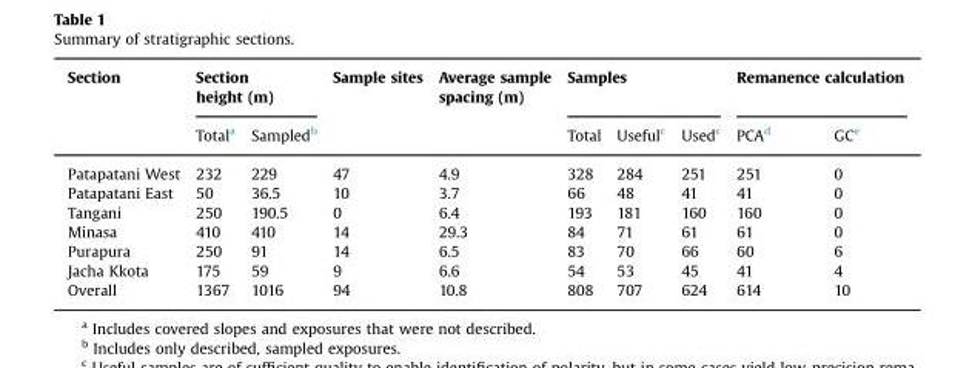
<table><thead><tr><td rowspan="2">Section</td><td colspan="2">Section height (m)</td><td rowspan="2">Sample sites</td><td rowspan="2">Average sample spacing (m)</td><td colspan="3">Samples</td><td colspan="2">Remanence calculation</td></tr><tr><td>Total<sup>a</sup></td><td>Sampled<sup>b</sup></td><td>Total</td><td>Useful<sup>c</sup></td><td>Used<sup>c</sup></td><td>PCA<sup>d</sup></td><td>GC<sup>e</sup></td></tr></thead><tbody><tr><td>Patapatani West</td><td>232</td><td>229</td><td>47</td><td>4.9</td><td>328</td><td>284</td><td>251</td><td>251</td><td>0</td></tr><tr><td>Patapatani East</td><td>50</td><td>36.5</td><td>10</td><td>3.7</td><td>66</td><td>48</td><td>41</td><td>41</td><td>0</td></tr><tr><td>Tangani</td><td>250</td><td>190.5</td><td>0</td><td>6.4</td><td>193</td><td>181</td><td>160</td><td>160</td><td>0</td></tr><tr><td>Minasa</td><td>410</td><td>410</td><td>14</td><td>29.3</td><td>84</td><td>71</td><td>61</td><td>61</td><td>0</td></tr><tr><td>Purapura</td><td>250</td><td>91</td><td>14</td><td>6.5</td><td>83</td><td>70</td><td>66</td><td>60</td><td>6</td></tr><tr><td>Jacha Kkota</td><td>175</td><td>59</td><td>9</td><td>6.6</td><td>54</td><td>53</td><td>45</td><td>41</td><td>4</td></tr><tr><td>Overall</td><td>1367</td><td>1016</td><td>94</td><td>10.8</td><td>808</td><td>707</td><td>624</td><td>614</td><td>10</td></tr></tbody></table>